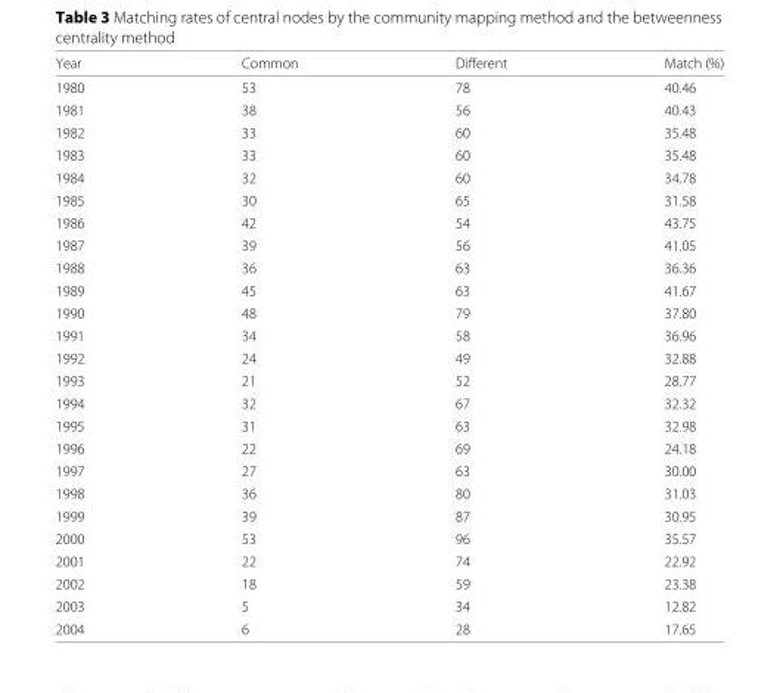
<table><thead><tr><td>Year</td><td>Common</td><td>Different</td><td>Match (%)</td></tr></thead><tbody><tr><td>1980</td><td>53</td><td>78</td><td>40.46</td></tr><tr><td>1981</td><td>38</td><td>56</td><td>40.43</td></tr><tr><td>1982</td><td>33</td><td>60</td><td>35.48</td></tr><tr><td>1983</td><td>33</td><td>60</td><td>35.48</td></tr><tr><td>1984</td><td>32</td><td>60</td><td>34.78</td></tr><tr><td>1985</td><td>30</td><td>65</td><td>31.58</td></tr><tr><td>1986</td><td>42</td><td>54</td><td>43.75</td></tr><tr><td>1987</td><td>39</td><td>56</td><td>41.05</td></tr><tr><td>1988</td><td>36</td><td>63</td><td>36.36</td></tr><tr><td>1989</td><td>45</td><td>63</td><td>41.67</td></tr><tr><td>1990</td><td>48</td><td>79</td><td>37.80</td></tr><tr><td>1991</td><td>34</td><td>58</td><td>36.96</td></tr><tr><td>1992</td><td>24</td><td>49</td><td>32.88</td></tr><tr><td>1993</td><td>21</td><td>52</td><td>28.77</td></tr><tr><td>1994</td><td>32</td><td>67</td><td>32.32</td></tr><tr><td>1995</td><td>31</td><td>63</td><td>32.98</td></tr><tr><td>1996</td><td>22</td><td>69</td><td>24.18</td></tr><tr><td>1997</td><td>27</td><td>63</td><td>30.00</td></tr><tr><td>1998</td><td>36</td><td>80</td><td>31.03</td></tr><tr><td>1999</td><td>39</td><td>87</td><td>30.95</td></tr><tr><td>2000</td><td>53</td><td>96</td><td>35.57</td></tr><tr><td>2001</td><td>22</td><td>74</td><td>22.92</td></tr><tr><td>2002</td><td>18</td><td>59</td><td>23.38</td></tr><tr><td>2003</td><td>5</td><td>34</td><td>12.82</td></tr><tr><td>2004</td><td>6</td><td>28</td><td>17.65</td></tr></tbody></table>